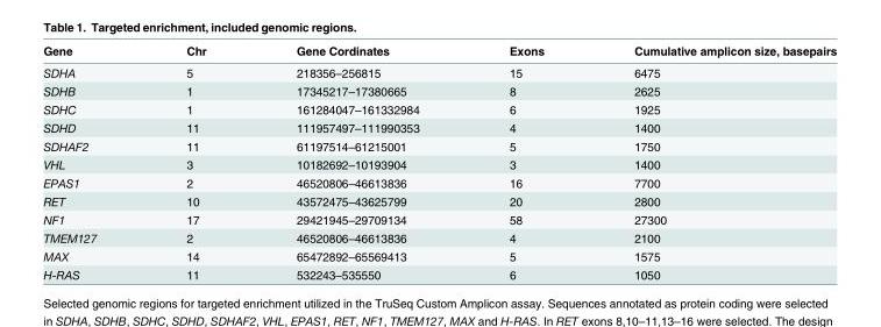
<table><thead><tr><td>Gene</td><td>Chr</td><td>Gene Cordinates</td><td>Exons</td><td>Cumulative amplicon size, basepairs</td></tr></thead><tbody><tr><td>SDHA</td><td>5</td><td>218356–256815</td><td>15</td><td>6475</td></tr><tr><td>SDHB</td><td>1</td><td>17345217–17380665</td><td>8</td><td>2625</td></tr><tr><td>SDHC</td><td>1</td><td>161284047–161332984</td><td>6</td><td>1925</td></tr><tr><td>SDHD</td><td>11</td><td>111957497–111990353</td><td>4</td><td>1400</td></tr><tr><td>SDHAF2</td><td>11</td><td>61197514–61215001</td><td>5</td><td>1750</td></tr><tr><td>VHL</td><td>3</td><td>10182692–10193904</td><td>3</td><td>1400</td></tr><tr><td>EPAS1</td><td>2</td><td>46520806–46613836</td><td>16</td><td>7700</td></tr><tr><td>RET</td><td>10</td><td>43572475–43625799</td><td>20</td><td>2800</td></tr><tr><td>NF1</td><td>17</td><td>29421945–29709134</td><td>58</td><td>27300</td></tr><tr><td>TMEM127</td><td>2</td><td>46520806–46613836</td><td>4</td><td>2100</td></tr><tr><td>MAX</td><td>14</td><td>65472892–65569413</td><td>5</td><td>1575</td></tr><tr><td>H-RAS</td><td>11</td><td>532243–535550</td><td>6</td><td>1050</td></tr></tbody></table>